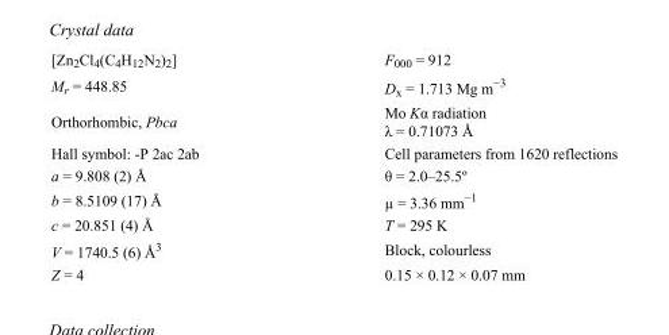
<table><tbody><tr><td>[Zn<sub>2</sub>Cl<sub>4</sub>(C<sub>4</sub>H<sub>12</sub>N<sub>2</sub>)<sub>2</sub>]</td><td>F000 = 912</td></tr><tr><td>M<sub>r</sub> = 448.85</td><td>D<sub>x</sub> = 1.713 Mg m<sup>−3</sup></td></tr><tr><td>Orthorhombic, Pbca</td><td>Mo Kα radiation λ = 0.71073 Å</td></tr><tr><td>Hall symbol: -P 2ac 2ab</td><td>Cell parameters from 1620 reflections</td></tr><tr><td>a = 9.808 (2) Å</td><td>θ = 2.0–25.5º</td></tr><tr><td>b = 8.5109 (17) Å</td><td>µ = 3.36 mm<sup>−1</sup></td></tr><tr><td>c = 20.851 (4) Å</td><td>T = 295 K</td></tr><tr><td>V = 1740.5 (6) Å<sup>3</sup></td><td>Block, colourless</td></tr><tr><td>Z = 4</td><td>0.15 × 0.12 × 0.07 mm</td></tr></tbody></table>